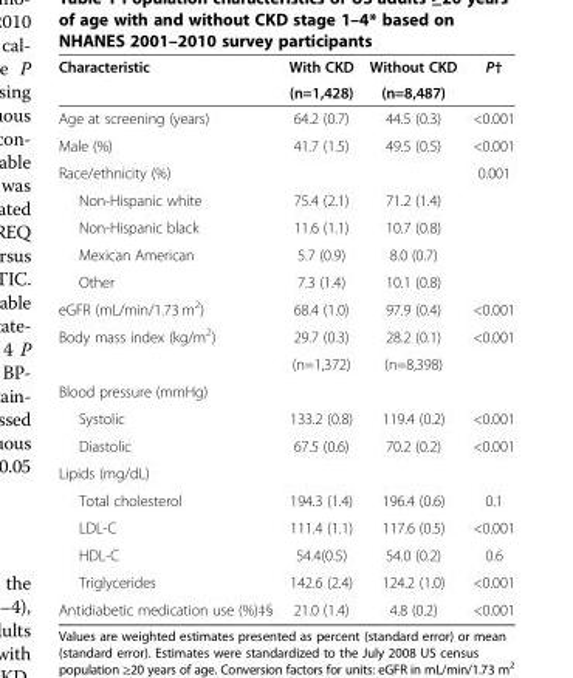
<table><thead><tr><td rowspan="2">Characteristic</td><td rowspan="2">With CKD (n=1,428)</td><td rowspan="2">Without CKD (n=8,487)</td><td rowspan="2">P†</td></tr><tr></tr></thead><tbody><tr><td>Age at screening (years)</td><td>64.2 (0.7)</td><td>44.5 (0.3)</td><td>&lt;0.001</td></tr><tr><td>Male (%)</td><td>41.7 (1.5)</td><td>49.5 (0.5)</td><td>&lt;0.001</td></tr><tr><td>Race/ethnicity (%)</td><td></td><td></td><td>0.001</td></tr><tr><td>Non-Hispanic white</td><td>75.4 (2.1)</td><td>71.2 (1.4)</td><td></td></tr><tr><td>Non-Hispanic black</td><td>11.6 (1.1)</td><td>10.7 (0.8)</td><td></td></tr><tr><td>Mexican American</td><td>5.7 (0.9)</td><td>8.0 (0.7)</td><td></td></tr><tr><td>Other</td><td>7.3 (1.4)</td><td>10.1 (0.8)</td><td></td></tr><tr><td>eGFR (mL/min/1.73 m<sup>2</sup>)</td><td>68.4 (1.0)</td><td>97.9 (0.4)</td><td>&lt;0.001</td></tr><tr><td rowspan="2">Body mass index (kg/m<sup>2</sup>)</td><td>29.7 (0.3)</td><td>28.2 (0.1)</td><td>&lt;0.001</td></tr><tr><td>(n=1,372)</td><td>(n=8,398)</td><td></td></tr><tr><td colspan="4">Blood pressure (mmHg)</td></tr><tr><td>Systolic</td><td>133.2 (0.8)</td><td>119.4 (0.2)</td><td>&lt;0.001</td></tr><tr><td>Diastolic</td><td>67.5 (0.6)</td><td>70.2 (0.2)</td><td>&lt;0.001</td></tr><tr><td colspan="4">Lipids (mg/dL)</td></tr><tr><td>Total cholesterol</td><td>194.3 (1.4)</td><td>196.4 (0.6)</td><td>0.1</td></tr><tr><td>LDL-C</td><td>111.4 (1.1)</td><td>117.6 (0.5)</td><td>&lt;0.001</td></tr><tr><td>HDL-C</td><td>54.4(0.5)</td><td>54.0 (0.2)</td><td>0.6</td></tr><tr><td>Triglycerides</td><td>142.6 (2.4)</td><td>124.2 (1.0)</td><td>&lt;0.001</td></tr><tr><td>Antidiabetic medication use (%)‡§</td><td>21.0 (1.4)</td><td>4.8 (0.2)</td><td>&lt;0.001</td></tr></tbody></table>